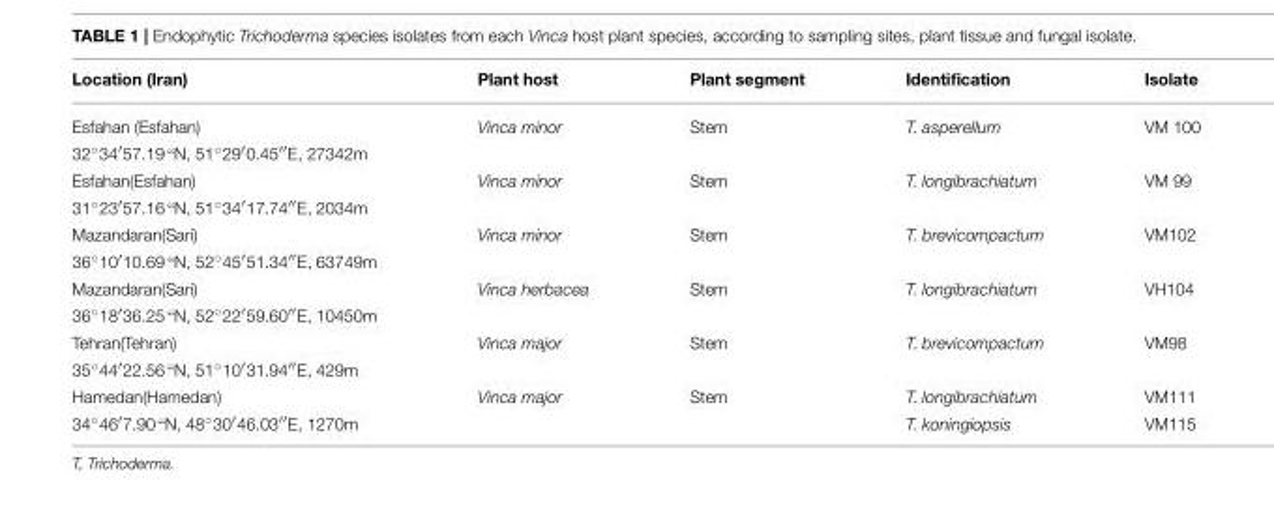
<table><thead><tr><td>Location (Iran)</td><td>Plant host</td><td>Plant segment</td><td>Identification</td><td>Isolate</td></tr></thead><tbody><tr><td>Esfahan (Esfahan)</td><td>Vinca minor</td><td>Stem</td><td>T. asperellum</td><td>VM 100</td></tr><tr><td colspan="5">32◦34′57.19“N, 51◦29′0.45′′E, 27342m</td></tr><tr><td>Esfahan(Esfahan)</td><td>Vinca minor</td><td>Stem</td><td>T. longibrachiatum</td><td>VM 99</td></tr><tr><td colspan="5">31◦23′57.16“N, 51◦34′17.74′′E, 2034m</td></tr><tr><td>Mazandaran(Sari)</td><td>Vinca minor</td><td>Stem</td><td>T. brevicompactum</td><td>VM102</td></tr><tr><td colspan="5">36◦10′10.69“N, 52◦45′51.34′′E, 63749m</td></tr><tr><td>Mazandaran(Sari)</td><td>Vinca herbacea</td><td>Stem</td><td>T. longibrachiatum</td><td>VH104</td></tr><tr><td colspan="5">36◦18′36.25“N, 52◦22′59.60′′E, 10450m</td></tr><tr><td>Tehran(Tehran)</td><td>Vinca major</td><td>Stem</td><td>T. brevicompactum</td><td>VM98</td></tr><tr><td colspan="5">35◦44′22.56“N, 51◦10′31.94′′E, 429m</td></tr><tr><td>Hamedan(Hamedan)</td><td>Vinca major</td><td>Stem</td><td>T. longibrachiatum</td><td>VM111</td></tr><tr><td>34◦46′7.90“N, 48◦30′46.03′′E, 1270m</td><td></td><td></td><td>T. koningiopsis</td><td>VM115</td></tr></tbody></table>